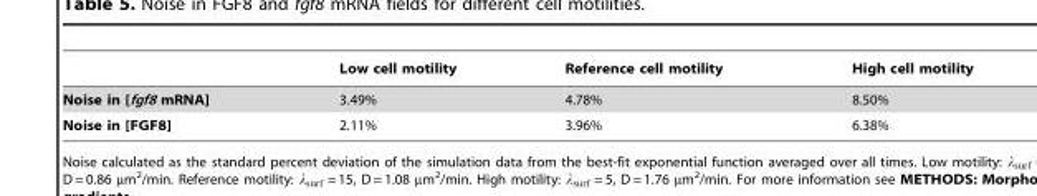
<table><thead><tr><td></td><td>Low cell motility</td><td>Reference cell motility</td><td>High cell motility</td></tr></thead><tbody><tr><td>Noise in [fgf8 mRNA]</td><td>3.49%</td><td>4.78%</td><td>8.50%</td></tr><tr><td>Noise in [FGF8]</td><td>2.11%</td><td>3.96%</td><td>6.38%</td></tr></tbody></table>